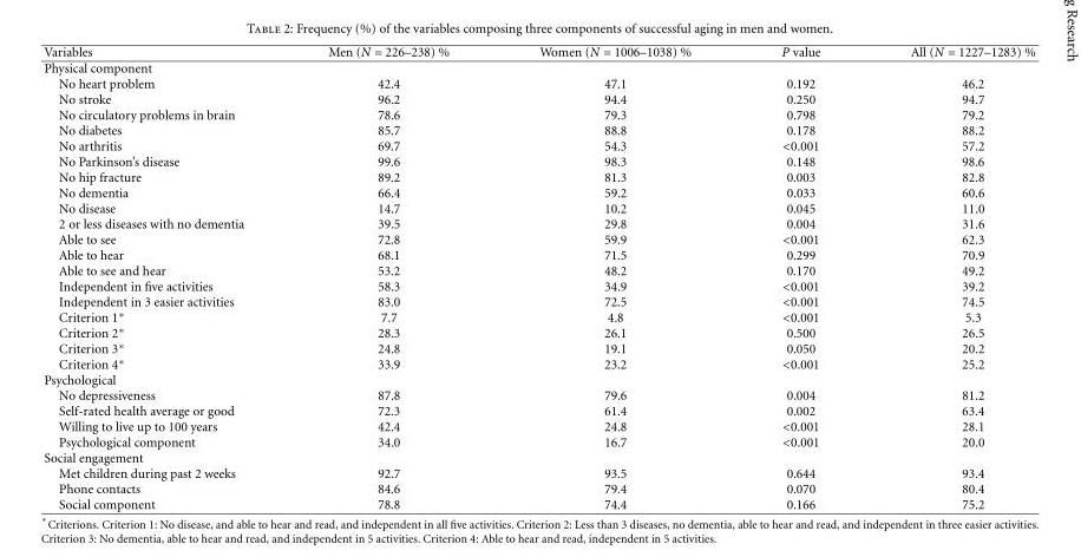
<table><thead><tr><td>Variables</td><td>Men (N = 226–238) %</td><td>Women (N = 1006–1038) %</td><td>P value</td><td>All (N = 1227–1283) %</td></tr></thead><tbody><tr><td colspan="5">Physical component</td></tr><tr><td>No heart problem</td><td>42.4</td><td>47.1</td><td>0.192</td><td>46.2</td></tr><tr><td>No stroke</td><td>96.2</td><td>94.4</td><td>0.250</td><td>94.7</td></tr><tr><td>No circulatory problems in brain</td><td>78.6</td><td>79.3</td><td>0.798</td><td>79.2</td></tr><tr><td>No diabetes</td><td>85.7</td><td>88.8</td><td>0.178</td><td>88.2</td></tr><tr><td>No arthritis</td><td>69.7</td><td>54.3</td><td>&lt;0.001</td><td>57.2</td></tr><tr><td>No Parkinson’s disease</td><td>99.6</td><td>98.3</td><td>0.148</td><td>98.6</td></tr><tr><td>No hip fracture</td><td>89.2</td><td>81.3</td><td>0.003</td><td>82.8</td></tr><tr><td>No dementia</td><td>66.4</td><td>59.2</td><td>0.033</td><td>60.6</td></tr><tr><td>No disease</td><td>14.7</td><td>10.2</td><td>0.045</td><td>11.0</td></tr><tr><td>2 or less diseases with no dementia</td><td>39.5</td><td>29.8</td><td>0.004</td><td>31.6</td></tr><tr><td>Able to see</td><td>72.8</td><td>59.9</td><td>&lt;0.001</td><td>62.3</td></tr><tr><td>Able to hear</td><td>68.1</td><td>71.5</td><td>0.299</td><td>70.9</td></tr><tr><td>Able to see and hear</td><td>53.2</td><td>48.2</td><td>0.170</td><td>49.2</td></tr><tr><td>Independent in five activities</td><td>58.3</td><td>34.9</td><td>&lt;0.001</td><td>39.2</td></tr><tr><td>Independent in 3 easier activities</td><td>83.0</td><td>72.5</td><td>&lt;0.001</td><td>74.5</td></tr><tr><td>Criterion 1∗</td><td>7.7</td><td>4.8</td><td>&lt;0.001</td><td>5.3</td></tr><tr><td>Criterion 2∗</td><td>28.3</td><td>26.1</td><td>0.500</td><td>26.5</td></tr><tr><td>Criterion 3∗</td><td>24.8</td><td>19.1</td><td>0.050</td><td>20.2</td></tr><tr><td>Criterion 4∗</td><td>33.9</td><td>23.2</td><td>&lt;0.001</td><td>25.2</td></tr><tr><td colspan="5">Psychological</td></tr><tr><td>No depressiveness</td><td>87.8</td><td>79.6</td><td>0.004</td><td>81.2</td></tr><tr><td>Self-rated health average or good</td><td>72.3</td><td>61.4</td><td>0.002</td><td>63.4</td></tr><tr><td>Willing to live up to 100 years</td><td>42.4</td><td>24.8</td><td>&lt;0.001</td><td>28.1</td></tr><tr><td>Psychological component</td><td>34.0</td><td>16.7</td><td>&lt;0.001</td><td>20.0</td></tr><tr><td colspan="5">Social engagement</td></tr><tr><td>Met children during past 2 weeks</td><td>92.7</td><td>93.5</td><td>0.644</td><td>93.4</td></tr><tr><td>Phone contacts</td><td>84.6</td><td>79.4</td><td>0.070</td><td>80.4</td></tr><tr><td>Social component</td><td>78.8</td><td>74.4</td><td>0.166</td><td>75.2</td></tr></tbody></table>